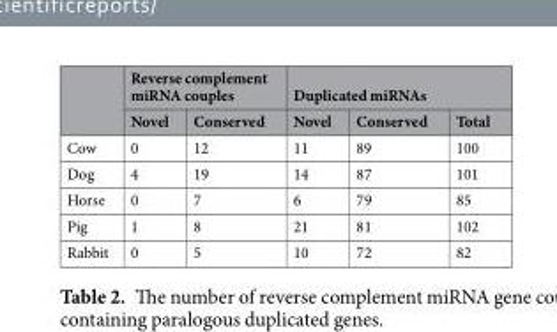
<table><thead><tr><td rowspan="2"></td><td colspan="2">Reverse complement miRNA couples</td><td colspan="3">Duplicated miRNAs</td></tr><tr><td>Novel</td><td>Conserved</td><td>Novel</td><td>Conserved</td><td>Total</td></tr></thead><tbody><tr><td>Cow</td><td>0</td><td>12</td><td>11</td><td>89</td><td>100</td></tr><tr><td>Dog</td><td>4</td><td>19</td><td>14</td><td>87</td><td>101</td></tr><tr><td>Horse</td><td>0</td><td>7</td><td>6</td><td>79</td><td>85</td></tr><tr><td>Pig</td><td>1</td><td>8</td><td>21</td><td>81</td><td>102</td></tr><tr><td>Rabbit</td><td>0</td><td>5</td><td>10</td><td>72</td><td>82</td></tr></tbody></table>